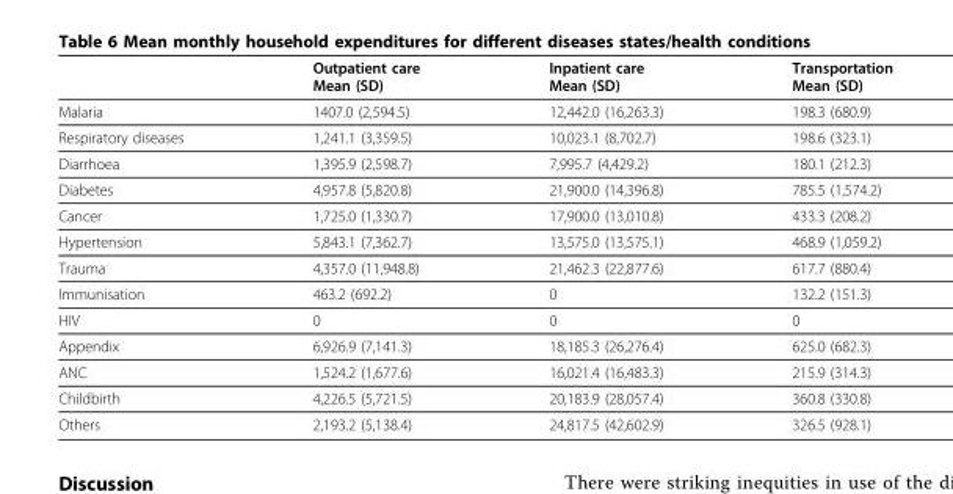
<table><thead><tr><td></td><td>Outpatient care Mean (SD)</td><td>Inpatient care Mean (SD)</td><td>Transportation Mean (SD)</td></tr></thead><tbody><tr><td>Malaria</td><td>1407.0 (2,594.5)</td><td>12,442.0 (16,263.3)</td><td>198.3 (680.9)</td></tr><tr><td>Respiratory diseases</td><td>1,241.1 (3,359.5)</td><td>10,023.1 (8,702.7)</td><td>198.6 (323.1)</td></tr><tr><td>Diarrhoea</td><td>1,395.9 (2,598.7)</td><td>7,995.7 (4,429.2)</td><td>180.1 (212.3)</td></tr><tr><td>Diabetes</td><td>4,957.8 (5,820.8)</td><td>21,900.0 (14,396.8)</td><td>785.5 (1,574.2)</td></tr><tr><td>Cancer</td><td>1,725.0 (1,330.7)</td><td>17,900.0 (13,010.8)</td><td>433.3 (208.2)</td></tr><tr><td>Hypertension</td><td>5,843.1 (7,362.7)</td><td>13,575.0 (13,575.1)</td><td>468.9 (1,059.2)</td></tr><tr><td>Trauma</td><td>4,357.0 (11,948.8)</td><td>21,462.3 (22,877.6)</td><td>617.7 (880.4)</td></tr><tr><td>Immunisation</td><td>463.2 (692.2)</td><td>0</td><td>132.2 (151.3)</td></tr><tr><td>HIV</td><td>0</td><td>0</td><td>0</td></tr><tr><td>Appendix</td><td>6,926.9 (7,141.3)</td><td>18,185.3 (26,276.4)</td><td>625.0 (682.3)</td></tr><tr><td>ANC</td><td>1,524.2 (1,677.6)</td><td>16,021.4 (16,483.3)</td><td>215.9 (314.3)</td></tr><tr><td>Childbirth</td><td>4,226.5 (5,721.5)</td><td>20,183.9 (28,057.4)</td><td>360.8 (330.8)</td></tr><tr><td>Others</td><td>2,193.2 (5,138.4)</td><td>24,817.5 (42,602.9)</td><td>326.5 (928.1)</td></tr></tbody></table>